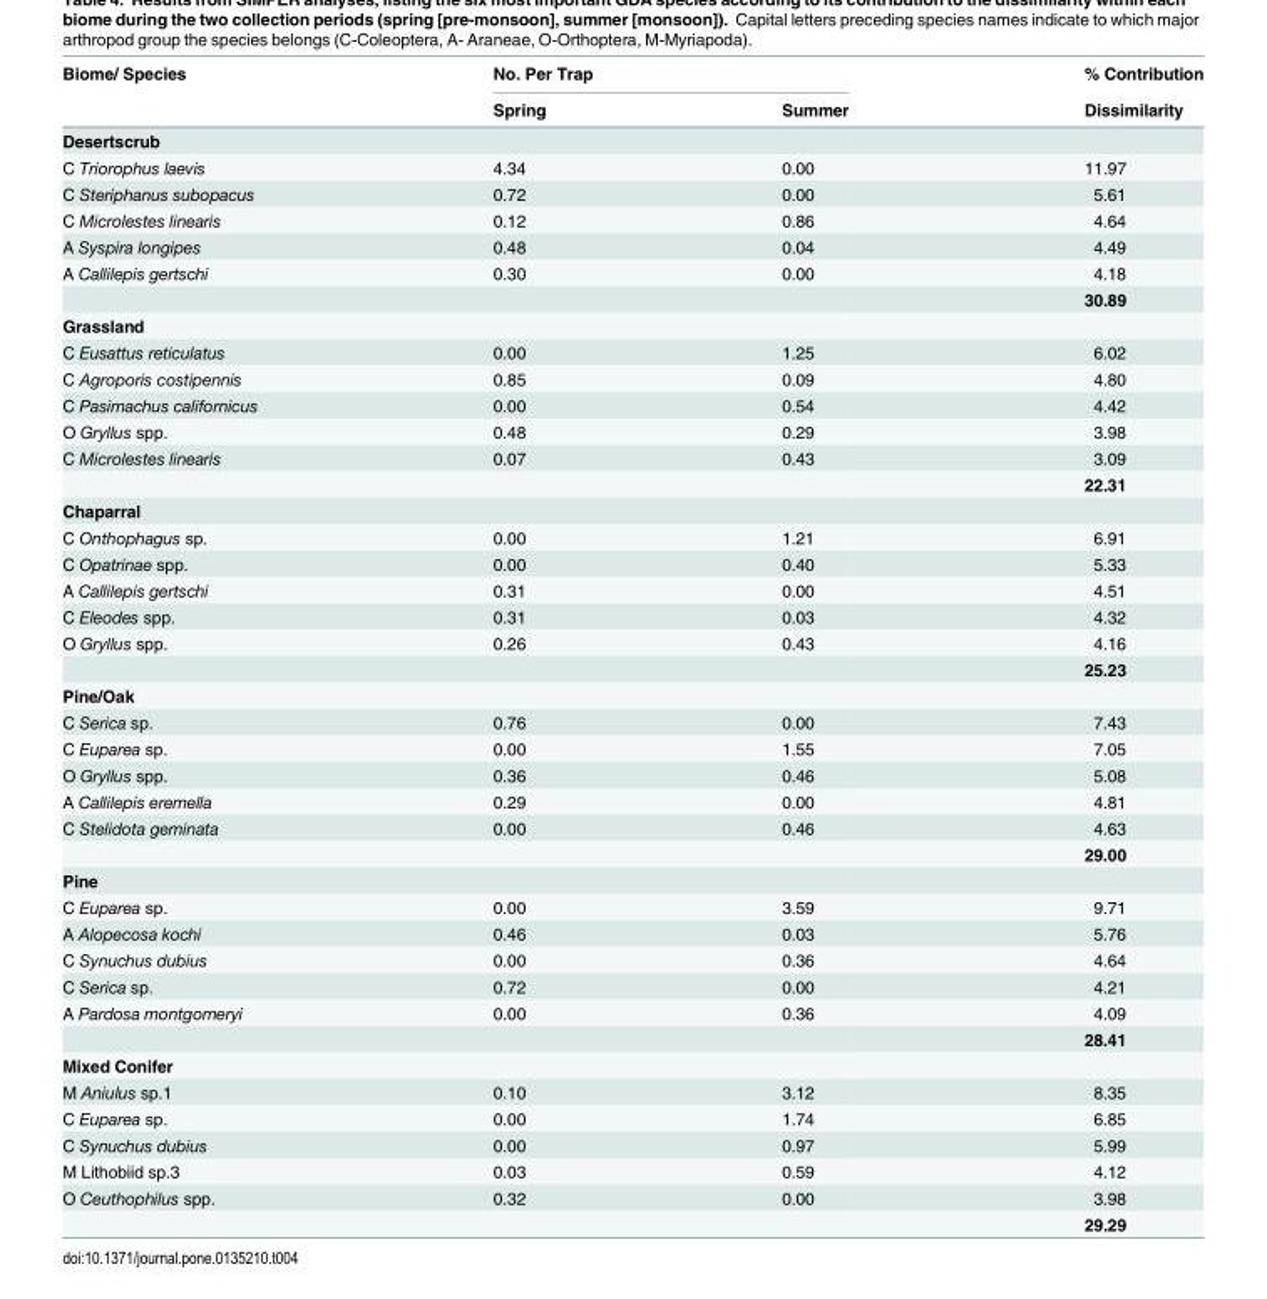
<table><thead><tr><td rowspan="2">Biome/ Species</td><td colspan="2">No. Per Trap</td><td rowspan="2">% Contribution Dissimilarity</td></tr><tr><td>Spring</td><td>Summer</td></tr></thead><tbody><tr><td colspan="4">Desertscrub</td></tr><tr><td>C Triorophus laevis</td><td>4.34</td><td>0.00</td><td>11.97</td></tr><tr><td>C Steriphanus subopacus</td><td>0.72</td><td>0.00</td><td>5.61</td></tr><tr><td>C Microlestes linearis</td><td>0.12</td><td>0.86</td><td>4.64</td></tr><tr><td>A Syspira longipes</td><td>0.48</td><td>0.04</td><td>4.49</td></tr><tr><td rowspan="2">A Callilepis gertschi</td><td>0.30</td><td>0.00</td><td>4.18</td></tr><tr><td></td><td></td><td>30.89</td></tr><tr><td colspan="4">Grassland</td></tr><tr><td>C Eusattus reticulatus</td><td>0.00</td><td>1.25</td><td>6.02</td></tr><tr><td>C Agroporis costipennis</td><td>0.85</td><td>0.09</td><td>4.80</td></tr><tr><td>C Pasimachus californicus</td><td>0.00</td><td>0.54</td><td>4.42</td></tr><tr><td>O Gryllus spp.</td><td>0.48</td><td>0.29</td><td>3.98</td></tr><tr><td rowspan="2">C Microlestes linearis</td><td>0.07</td><td>0.43</td><td>3.09</td></tr><tr><td></td><td></td><td>22.31</td></tr><tr><td colspan="4">Chaparral</td></tr><tr><td>C Onthophagus sp.</td><td>0.00</td><td>1.21</td><td>6.91</td></tr><tr><td>C Opatrinae spp.</td><td>0.00</td><td>0.40</td><td>5.33</td></tr><tr><td>A Callilepis gertschi</td><td>0.31</td><td>0.00</td><td>4.51</td></tr><tr><td>C Eleodes spp.</td><td>0.31</td><td>0.03</td><td>4.32</td></tr><tr><td rowspan="2">O Gryllus spp.</td><td>0.26</td><td>0.43</td><td>4.16</td></tr><tr><td></td><td></td><td>25.23</td></tr><tr><td colspan="4">Pine/Oak</td></tr><tr><td>C Serica sp.</td><td>0.76</td><td>0.00</td><td>7.43</td></tr><tr><td>C Euparea sp.</td><td>0.00</td><td>1.55</td><td>7.05</td></tr><tr><td>O Gryllus spp.</td><td>0.36</td><td>0.46</td><td>5.08</td></tr><tr><td>A Callilepis eremella</td><td>0.29</td><td>0.00</td><td>4.81</td></tr><tr><td rowspan="2">C Stelidota geminata</td><td>0.00</td><td>0.46</td><td>4.63</td></tr><tr><td></td><td></td><td>29.00</td></tr><tr><td colspan="4">Pine</td></tr><tr><td>C Euparea sp.</td><td>0.00</td><td>3.59</td><td>9.71</td></tr><tr><td>A Alopecosa kochi</td><td>0.46</td><td>0.03</td><td>5.76</td></tr><tr><td>C Synuchus dubius</td><td>0.00</td><td>0.36</td><td>4.64</td></tr><tr><td>C Serica sp.</td><td>0.72</td><td>0.00</td><td>4.21</td></tr><tr><td rowspan="2">A Pardosa montgomeryi</td><td>0.00</td><td>0.36</td><td>4.09</td></tr><tr><td></td><td></td><td>28.41</td></tr><tr><td colspan="4">Mixed Conifer</td></tr><tr><td>M Aniulus sp.1</td><td>0.10</td><td>3.12</td><td>8.35</td></tr><tr><td>C Euparea sp.</td><td>0.00</td><td>1.74</td><td>6.85</td></tr><tr><td>C Synuchus dubius</td><td>0.00</td><td>0.97</td><td>5.99</td></tr><tr><td>M Lithobiid sp.3</td><td>0.03</td><td>0.59</td><td>4.12</td></tr><tr><td rowspan="2">O Ceuthophilus spp.</td><td>0.32</td><td>0.00</td><td>3.98</td></tr><tr><td></td><td></td><td>29.29</td></tr></tbody></table>